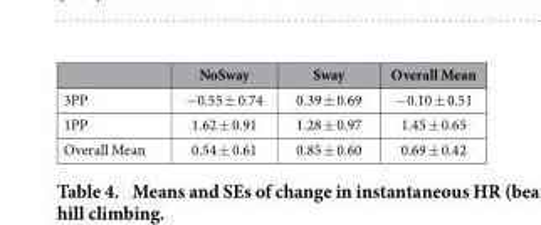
<table><thead><tr><td></td><td>NoSway</td><td>Sway</td><td>Overall Mean</td></tr></thead><tbody><tr><td>3PP</td><td>− 0.55 ± 0.74</td><td>0.39 ± 0.69</td><td>− 0.10 ± 0.51</td></tr><tr><td>1PP</td><td>1.62 ± 0.91</td><td>1.28 ± 0.97</td><td>1.45 ± 0.65</td></tr><tr><td>Overall Mean</td><td>0.54 ± 0.61</td><td>0.85 ± 0.60</td><td>0.69 ± 0.42</td></tr></tbody></table>